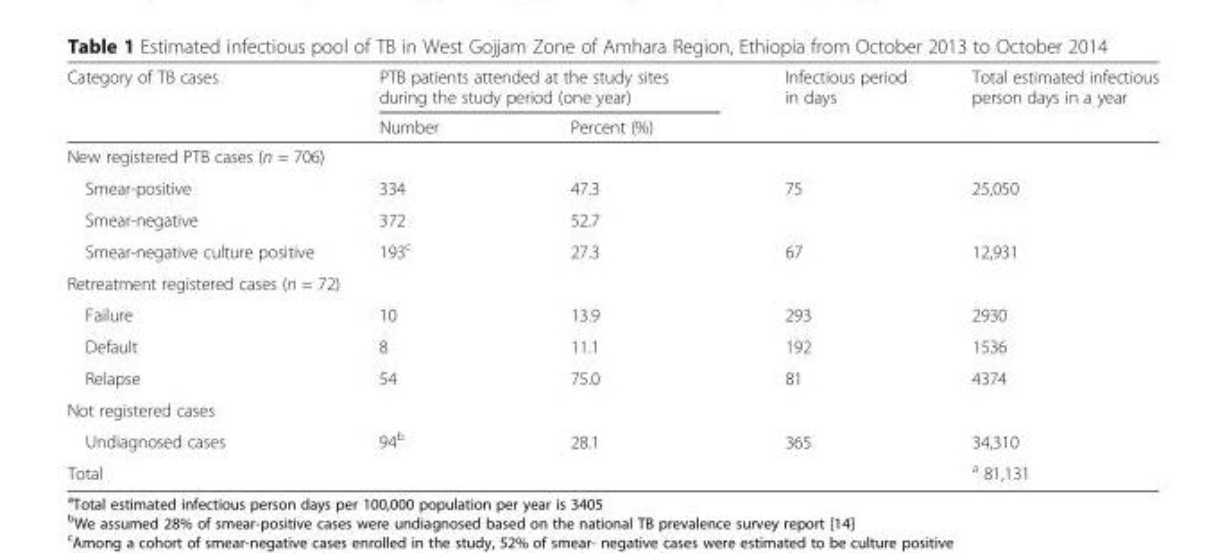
<table><thead><tr><td rowspan="2">Category of TB cases</td><td colspan="2">PTB patients attended at the study sites during the study period (one year)</td><td rowspan="2">Infectious period in days</td><td rowspan="2">Total estimated infectious person days in a year</td></tr><tr><td>Number</td><td>Percent (%)</td></tr></thead><tbody><tr><td colspan="5">New registered PTB cases (n = 706)</td></tr><tr><td>Smear-positive</td><td>334</td><td>47.3</td><td>75</td><td>25,050</td></tr><tr><td>Smear-negative</td><td>372</td><td>52.7</td><td></td><td></td></tr><tr><td>Smear-negative culture positive</td><td>193<sup>c</sup></td><td>27.3</td><td>67</td><td>12,931</td></tr><tr><td colspan="5">Retreatment registered cases (n = 72)</td></tr><tr><td>Failure</td><td>10</td><td>13.9</td><td>293</td><td>2930</td></tr><tr><td>Default</td><td>8</td><td>11.1</td><td>192</td><td>1536</td></tr><tr><td>Relapse</td><td>54</td><td>75.0</td><td>81</td><td>4374</td></tr><tr><td colspan="5">Not registered cases</td></tr><tr><td>Undiagnosed cases</td><td>94<sup>b</sup></td><td>28.1</td><td>365</td><td>34,310</td></tr><tr><td>Total</td><td></td><td></td><td></td><td><sup>a</sup> 81,131</td></tr></tbody></table>